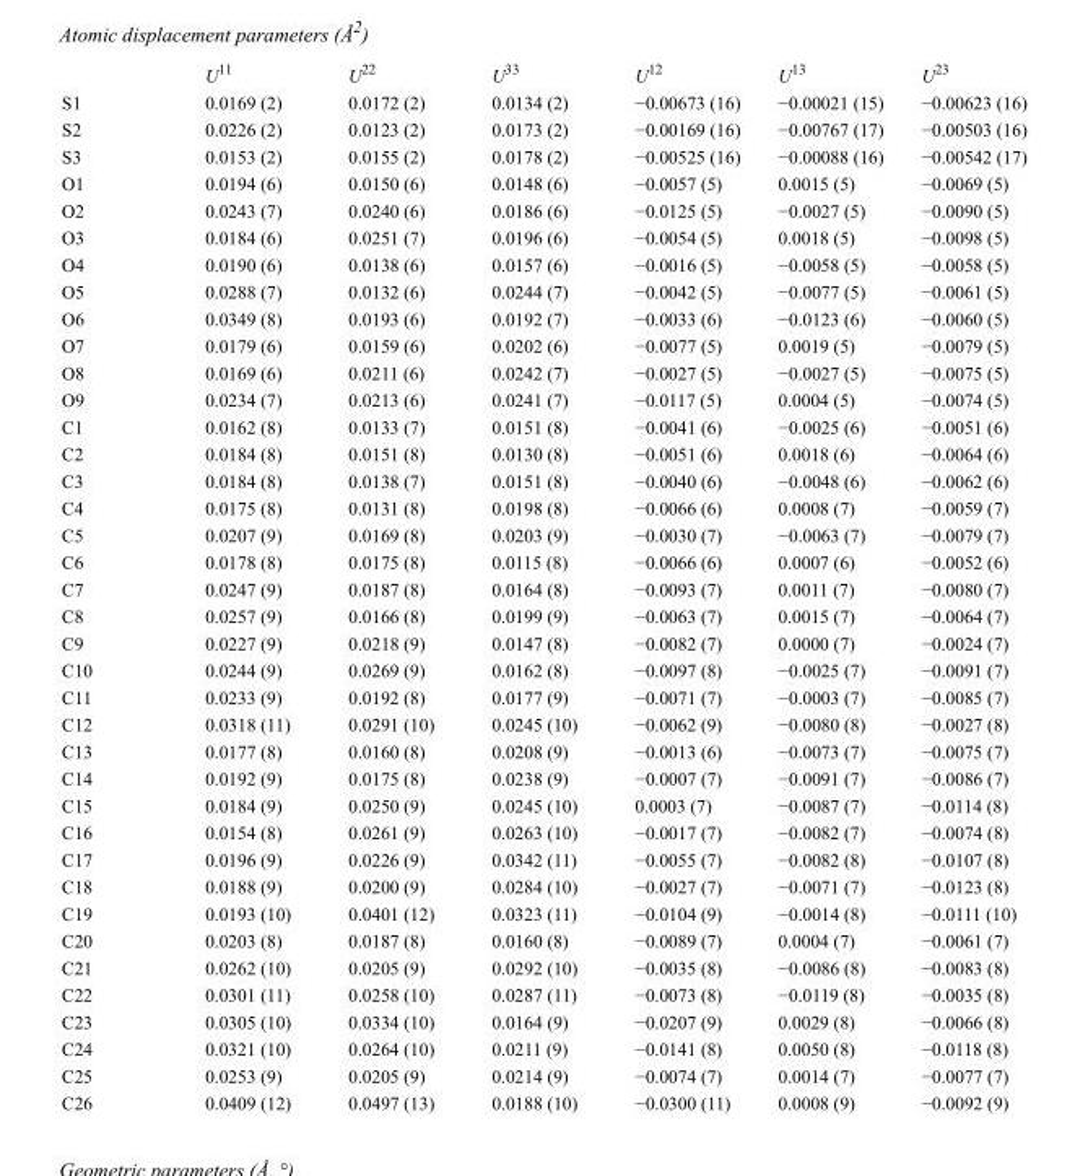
<table><thead><tr><td></td><td>U<sup>11</sup></td><td>U<sup>22</sup></td><td>U<sup>33</sup></td><td>U<sup>12</sup></td><td>U<sup>13</sup></td><td>U<sup>23</sup></td></tr></thead><tbody><tr><td>S1</td><td>0.0169 (2)</td><td>0.0172 (2)</td><td>0.0134 (2)</td><td>−0.00673 (16)</td><td>−0.00021 (15)</td><td>−0.00623 (16)</td></tr><tr><td>S2</td><td>0.0226 (2)</td><td>0.0123 (2)</td><td>0.0173 (2)</td><td>−0.00169 (16)</td><td>−0.00767 (17)</td><td>−0.00503 (16)</td></tr><tr><td>S3</td><td>0.0153 (2)</td><td>0.0155 (2)</td><td>0.0178 (2)</td><td>−0.00525 (16)</td><td>−0.00088 (16)</td><td>−0.00542 (17)</td></tr><tr><td>O1</td><td>0.0194 (6)</td><td>0.0150 (6)</td><td>0.0148 (6)</td><td>−0.0057 (5)</td><td>0.0015 (5)</td><td>−0.0069 (5)</td></tr><tr><td>O2</td><td>0.0243 (7)</td><td>0.0240 (6)</td><td>0.0186 (6)</td><td>−0.0125 (5)</td><td>−0.0027 (5)</td><td>−0.0090 (5)</td></tr><tr><td>O3</td><td>0.0184 (6)</td><td>0.0251 (7)</td><td>0.0196 (6)</td><td>−0.0054 (5)</td><td>0.0018 (5)</td><td>−0.0098 (5)</td></tr><tr><td>O4</td><td>0.0190 (6)</td><td>0.0138 (6)</td><td>0.0157 (6)</td><td>−0.0016 (5)</td><td>−0.0058 (5)</td><td>−0.0058 (5)</td></tr><tr><td>O5</td><td>0.0288 (7)</td><td>0.0132 (6)</td><td>0.0244 (7)</td><td>−0.0042 (5)</td><td>−0.0077 (5)</td><td>−0.0061 (5)</td></tr><tr><td>O6</td><td>0.0349 (8)</td><td>0.0193 (6)</td><td>0.0192 (7)</td><td>−0.0033 (6)</td><td>−0.0123 (6)</td><td>−0.0060 (5)</td></tr><tr><td>O7</td><td>0.0179 (6)</td><td>0.0159 (6)</td><td>0.0202 (6)</td><td>−0.0077 (5)</td><td>0.0019 (5)</td><td>−0.0079 (5)</td></tr><tr><td>O8</td><td>0.0169 (6)</td><td>0.0211 (6)</td><td>0.0242 (7)</td><td>−0.0027 (5)</td><td>−0.0027 (5)</td><td>−0.0075 (5)</td></tr><tr><td>O9</td><td>0.0234 (7)</td><td>0.0213 (6)</td><td>0.0241 (7)</td><td>−0.0117 (5)</td><td>0.0004 (5)</td><td>−0.0074 (5)</td></tr><tr><td>C1</td><td>0.0162 (8)</td><td>0.0133 (7)</td><td>0.0151 (8)</td><td>−0.0041 (6)</td><td>−0.0025 (6)</td><td>−0.0051 (6)</td></tr><tr><td>C2</td><td>0.0184 (8)</td><td>0.0151 (8)</td><td>0.0130 (8)</td><td>−0.0051 (6)</td><td>0.0018 (6)</td><td>−0.0064 (6)</td></tr><tr><td>C3</td><td>0.0184 (8)</td><td>0.0138 (7)</td><td>0.0151 (8)</td><td>−0.0040 (6)</td><td>−0.0048 (6)</td><td>−0.0062 (6)</td></tr><tr><td>C4</td><td>0.0175 (8)</td><td>0.0131 (8)</td><td>0.0198 (8)</td><td>−0.0066 (6)</td><td>0.0008 (7)</td><td>−0.0059 (7)</td></tr><tr><td>C5</td><td>0.0207 (9)</td><td>0.0169 (8)</td><td>0.0203 (9)</td><td>−0.0030 (7)</td><td>−0.0063 (7)</td><td>−0.0079 (7)</td></tr><tr><td>C6</td><td>0.0178 (8)</td><td>0.0175 (8)</td><td>0.0115 (8)</td><td>−0.0066 (6)</td><td>0.0007 (6)</td><td>−0.0052 (6)</td></tr><tr><td>C7</td><td>0.0247 (9)</td><td>0.0187 (8)</td><td>0.0164 (8)</td><td>−0.0093 (7)</td><td>0.0011 (7)</td><td>−0.0080 (7)</td></tr><tr><td>C8</td><td>0.0257 (9)</td><td>0.0166 (8)</td><td>0.0199 (9)</td><td>−0.0063 (7)</td><td>0.0015 (7)</td><td>−0.0064 (7)</td></tr><tr><td>C9</td><td>0.0227 (9)</td><td>0.0218 (9)</td><td>0.0147 (8)</td><td>−0.0082 (7)</td><td>0.0000 (7)</td><td>−0.0024 (7)</td></tr><tr><td>C10</td><td>0.0244 (9)</td><td>0.0269 (9)</td><td>0.0162 (8)</td><td>−0.0097 (8)</td><td>−0.0025 (7)</td><td>−0.0091 (7)</td></tr><tr><td>C11</td><td>0.0233 (9)</td><td>0.0192 (8)</td><td>0.0177 (9)</td><td>−0.0071 (7)</td><td>−0.0003 (7)</td><td>−0.0085 (7)</td></tr><tr><td>C12</td><td>0.0318 (11)</td><td>0.0291 (10)</td><td>0.0245 (10)</td><td>−0.0062 (9)</td><td>−0.0080 (8)</td><td>−0.0027 (8)</td></tr><tr><td>C13</td><td>0.0177 (8)</td><td>0.0160 (8)</td><td>0.0208 (9)</td><td>−0.0013 (6)</td><td>−0.0073 (7)</td><td>−0.0075 (7)</td></tr><tr><td>C14</td><td>0.0192 (9)</td><td>0.0175 (8)</td><td>0.0238 (9)</td><td>−0.0007 (7)</td><td>−0.0091 (7)</td><td>−0.0086 (7)</td></tr><tr><td>C15</td><td>0.0184 (9)</td><td>0.0250 (9)</td><td>0.0245 (10)</td><td>0.0003 (7)</td><td>−0.0087 (7)</td><td>−0.0114 (8)</td></tr><tr><td>C16</td><td>0.0154 (8)</td><td>0.0261 (9)</td><td>0.0263 (10)</td><td>−0.0017 (7)</td><td>−0.0082 (7)</td><td>−0.0074 (8)</td></tr><tr><td>C17</td><td>0.0196 (9)</td><td>0.0226 (9)</td><td>0.0342 (11)</td><td>−0.0055 (7)</td><td>−0.0082 (8)</td><td>−0.0107 (8)</td></tr><tr><td>C18</td><td>0.0188 (9)</td><td>0.0200 (9)</td><td>0.0284 (10)</td><td>−0.0027 (7)</td><td>−0.0071 (7)</td><td>−0.0123 (8)</td></tr><tr><td>C19</td><td>0.0193 (10)</td><td>0.0401 (12)</td><td>0.0323 (11)</td><td>−0.0104 (9)</td><td>−0.0014 (8)</td><td>−0.0111 (10)</td></tr><tr><td>C20</td><td>0.0203 (8)</td><td>0.0187 (8)</td><td>0.0160 (8)</td><td>−0.0089 (7)</td><td>0.0004 (7)</td><td>−0.0061 (7)</td></tr><tr><td>C21</td><td>0.0262 (10)</td><td>0.0205 (9)</td><td>0.0292 (10)</td><td>−0.0035 (8)</td><td>−0.0086 (8)</td><td>−0.0083 (8)</td></tr><tr><td>C22</td><td>0.0301 (11)</td><td>0.0258 (10)</td><td>0.0287 (11)</td><td>−0.0073 (8)</td><td>−0.0119 (8)</td><td>−0.0035 (8)</td></tr><tr><td>C23</td><td>0.0305 (10)</td><td>0.0334 (10)</td><td>0.0164 (9)</td><td>−0.0207 (9)</td><td>0.0029 (8)</td><td>−0.0066 (8)</td></tr><tr><td>C24</td><td>0.0321 (10)</td><td>0.0264 (10)</td><td>0.0211 (9)</td><td>−0.0141 (8)</td><td>0.0050 (8)</td><td>−0.0118 (8)</td></tr><tr><td>C25</td><td>0.0253 (9)</td><td>0.0205 (9)</td><td>0.0214 (9)</td><td>−0.0074 (7)</td><td>0.0014 (7)</td><td>−0.0077 (7)</td></tr><tr><td>C26</td><td>0.0409 (12)</td><td>0.0497 (13)</td><td>0.0188 (10)</td><td>−0.0300 (11)</td><td>0.0008 (9)</td><td>−0.0092 (9)</td></tr></tbody></table>